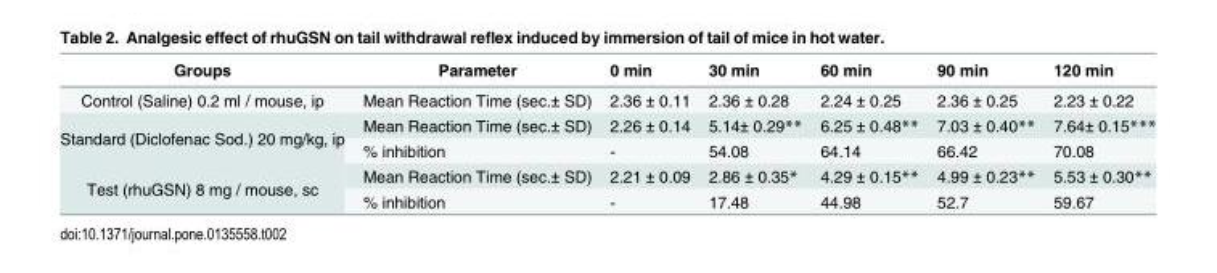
<table><thead><tr><td>Groups</td><td>Parameter</td><td>0 min</td><td>30 min</td><td>60 min</td><td>90 min</td><td>120 min</td></tr></thead><tbody><tr><td>Control (Saline) 0.2 ml / mouse, ip</td><td>Mean Reaction Time (sec.± SD)</td><td>2.36 ± 0.11</td><td>2.36 ± 0.28</td><td>2.24 ± 0.25</td><td>2.36 ± 0.25</td><td>2.23 ± 0.22</td></tr><tr><td rowspan="2">Standard (Diclofenac Sod.) 20 mg/kg, ip</td><td>Mean Reaction Time (sec.± SD)</td><td>2.26 ± 0.14</td><td>5.14± 0.29**</td><td>6.25 ± 0.48**</td><td>7.03 ± 0.40**</td><td>7.64± 0.15***</td></tr><tr><td>% inhibition</td><td>-</td><td>54.08</td><td>64.14</td><td>66.42</td><td>70.08</td></tr><tr><td rowspan="2">Test (rhuGSN) 8 mg / mouse, sc</td><td>Mean Reaction Time (sec.± SD)</td><td>2.21 ± 0.09</td><td>2.86 ± 0.35*</td><td>4.29 ± 0.15**</td><td>4.99 ± 0.23**</td><td>5.53 ± 0.30**</td></tr><tr><td>% inhibition</td><td>-</td><td>17.48</td><td>44.98</td><td>52.7</td><td>59.67</td></tr></tbody></table>